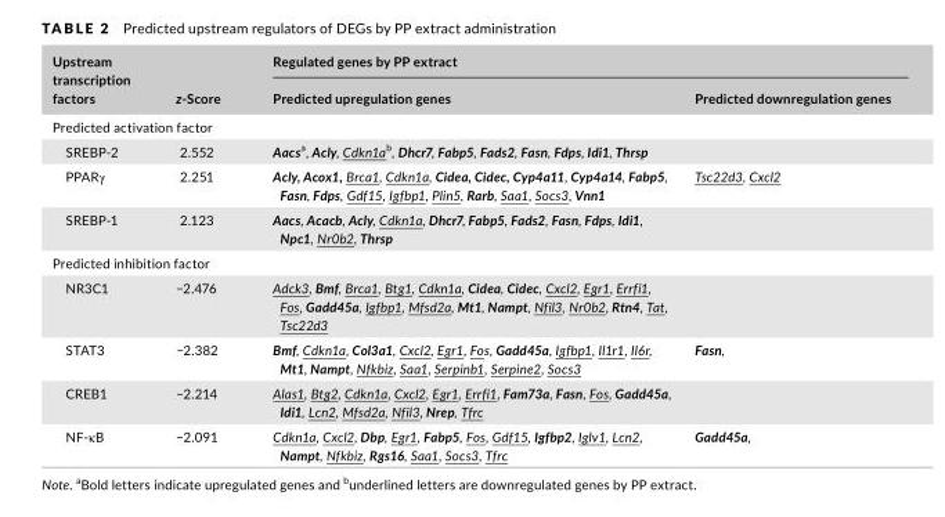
<table><thead><tr><td rowspan="2">Upstream transcription factors</td><td rowspan="2">z- Score</td><td colspan="2">Regulated genes by PP extract</td></tr><tr><td>Predicted upregulation genes</td><td>Predicted downregulation genes</td></tr></thead><tbody><tr><td colspan="4">Predicted activation factor</td></tr><tr><td>SREBP- 2</td><td>2.552</td><td>Aacsa, Acly, Cdkn1ab, Dhcr7, Fabp5, Fads2, Fasn, Fdps, Idi1, Thrsp</td><td></td></tr><tr><td>PPARγ</td><td>2.251</td><td>Acly, Acox1, Brca1, Cdkn1a, Cidea, Cidec, Cyp4a11, Cyp4a14, Fabp5, Fasn, Fdps, Gdf15, Igfbp1, Plin5, Rarb, Saa1, Socs3, Vnn1</td><td>Tsc22d3, Cxcl2</td></tr><tr><td>SREBP- 1</td><td>2.123</td><td>Aacs, Acacb, Acly, Cdkn1a, Dhcr7, Fabp5, Fads2, Fasn, Fdps, Idi1, Npc1, Nr0b2, Thrsp</td><td></td></tr><tr><td colspan="4">Predicted inhibition factor</td></tr><tr><td>NR3C1</td><td>−2.476</td><td>Adck3, Bmf, Brca1, Btg1, Cdkn1a, Cidea, Cidec, Cxcl2, Egr1, Errfi1, Fos, Gadd45a, Igfbp1, Mfsd2a, Mt1, Nampt, Nfil3, Nr0b2, Rtn4, Tat, Tsc22d3</td><td></td></tr><tr><td>STAT3</td><td>−2.382</td><td>Bmf, Cdkn1a, Col3a1, Cxcl2, Egr1, Fos, Gadd45a, Igfbp1, Il1r1, Il6r, Mt1, Nampt, Nfkbiz, Saa1, Serpinb1, Serpine2, Socs3</td><td>Fasn,</td></tr><tr><td>CREB1</td><td>−2.214</td><td>Alas1, Btg2, Cdkn1a, Cxcl2, Egr1, Errfi1, Fam73a, Fasn, Fos, Gadd45a, Idi1, Lcn2, Mfsd2a, Nfil3, Nrep, Tfrc</td><td></td></tr><tr><td>NF- κB</td><td>−2.091</td><td>Cdkn1a, Cxcl2, Dbp, Egr1, Fabp5, Fos, Gdf15, Igfbp2, Iglv1, Lcn2, Nampt, Nfkbiz, Rgs16, Saa1, Socs3, Tfrc</td><td>Gadd45a,</td></tr></tbody></table>